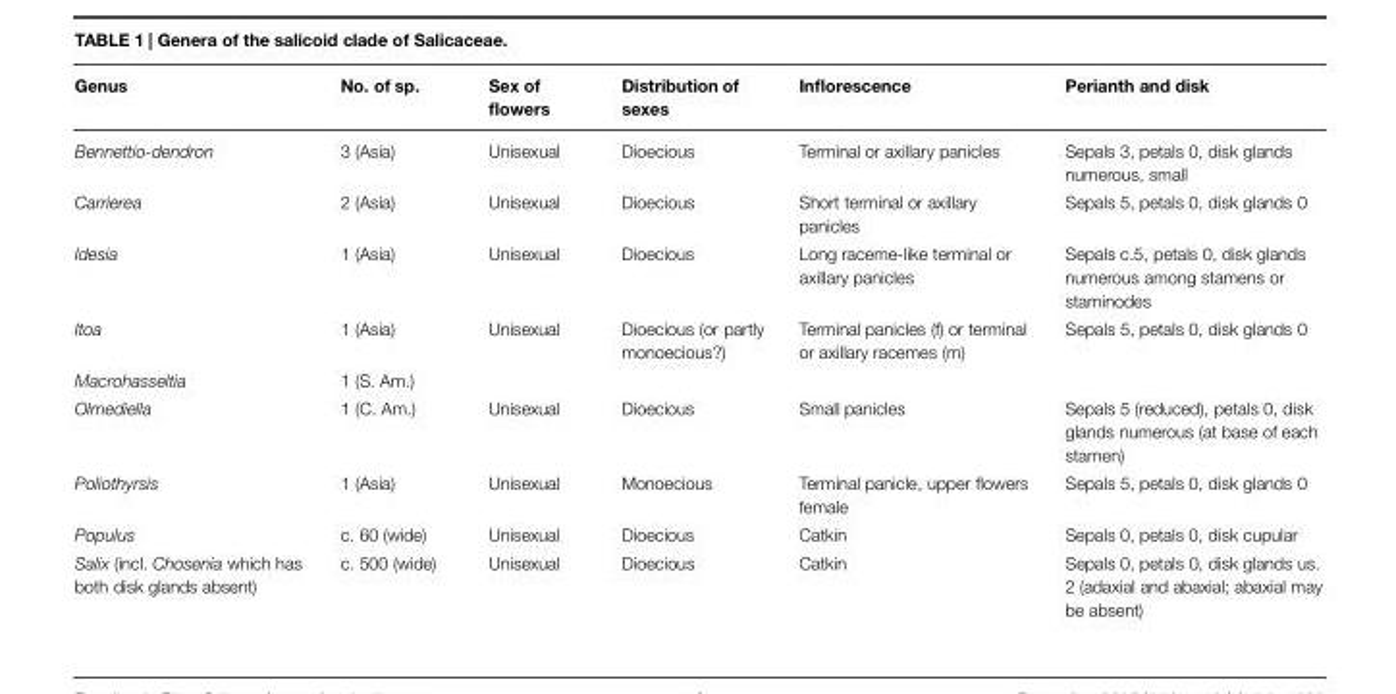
<table><thead><tr><td>Genus</td><td>No. of sp.</td><td>Sex of flowers</td><td>Distribution of sexes</td><td>Inflorescence</td><td>Perianth and disk</td></tr></thead><tbody><tr><td>Bennettio-dendron</td><td>3 (Asia)</td><td>Unisexual</td><td>Dioecious</td><td>Terminal or axillary panicles</td><td>Sepals 3, petals 0, disk glands numerous, small</td></tr><tr><td>Carrierea</td><td>2 (Asia)</td><td>Unisexual</td><td>Dioecious</td><td>Short terminal or axillary panicles</td><td>Sepals 5, petals 0, disk glands 0</td></tr><tr><td>Idesia</td><td>1 (Asia)</td><td>Unisexual</td><td>Dioecious</td><td>Long raceme-like terminal or axillary panicles</td><td>Sepals c.5, petals 0, disk glands numerous among stamens or staminodes</td></tr><tr><td>Itoa</td><td>1 (Asia)</td><td>Unisexual</td><td>Dioecious (or partly monoecious?)</td><td>Terminal panicles (f) or terminal or axillary racemes (m)</td><td>Sepals 5, petals 0, disk glands 0</td></tr><tr><td>Macrohasseltia</td><td>1 (S. Am.)</td><td></td><td></td><td></td><td></td></tr><tr><td>Olmediella</td><td>1 (C. Am.)</td><td>Unisexual</td><td>Dioecious</td><td>Small panicles</td><td>Sepals 5 (reduced), petals 0, disk glands numerous (at base of each stamen)</td></tr><tr><td>Poliothyrsis</td><td>1 (Asia)</td><td>Unisexual</td><td>Monoecious</td><td>Terminal panicle, upper flowers female</td><td>Sepals 5, petals 0, disk glands 0</td></tr><tr><td>Populus</td><td>c. 60 (wide)</td><td>Unisexual</td><td>Dioecious</td><td>Catkin</td><td>Sepals 0, petals 0, disk cupular</td></tr><tr><td>Salix (incl. Chosenia which has both disk glands absent)</td><td>c. 500 (wide)</td><td>Unisexual</td><td>Dioecious</td><td>Catkin</td><td>Sepals 0, petals 0, disk glands us. 2 (adaxial and abaxial; abaxial may be absent)</td></tr></tbody></table>